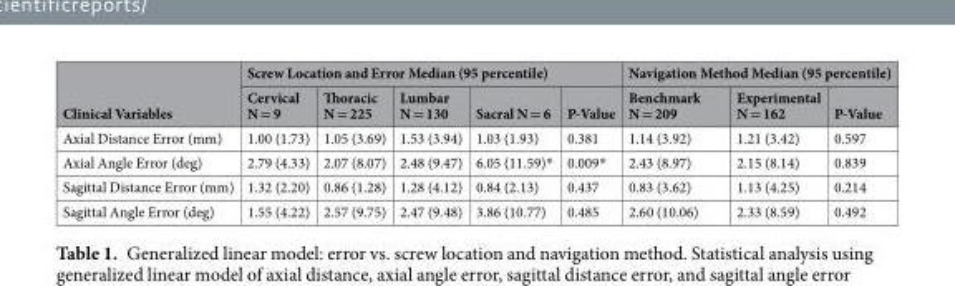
<table><thead><tr><td rowspan="2">Clinical Variables</td><td colspan="5">Screw Location and Error Median (95 percentile)</td><td colspan="3">Navigation Method Median (95 percentile)</td></tr><tr><td>Cervical N = 9</td><td>Thoracic N = 225</td><td>Lumbar N = 130</td><td>Sacral N = 6</td><td>P-Value</td><td>Benchmark N = 209</td><td>Experimental N = 162</td><td>P-Value</td></tr></thead><tbody><tr><td>Axial Distance Error (mm)</td><td>1.00 (1.73)</td><td>1.05 (3.69)</td><td>1.53 (3.94)</td><td>1.03 (1.93)</td><td>0.381</td><td>1.14 (3.92)</td><td>1.21 (3.42)</td><td>0.597</td></tr><tr><td>Axial Angle Error (deg)</td><td>2.79 (4.33)</td><td>2.07 (8.07)</td><td>2.48 (9.47)</td><td>6.05 (11.59)*</td><td>0.009*</td><td>2.43 (8.97)</td><td>2.15 (8.14)</td><td>0.839</td></tr><tr><td>Sagittal Distance Error (mm)</td><td>1.32 (2.20)</td><td>0.86 (1.28)</td><td>1.28 (4.12)</td><td>0.84 (2.13)</td><td>0.437</td><td>0.83 (3.62)</td><td>1.13 (4.25)</td><td>0.214</td></tr><tr><td>Sagittal Angle Error (deg)</td><td>1.55 (4.22)</td><td>2.57 (9.75)</td><td>2.47 (9.48)</td><td>3.86 (10.77)</td><td>0.485</td><td>2.60 (10.06)</td><td>2.33 (8.59)</td><td>0.492</td></tr></tbody></table>